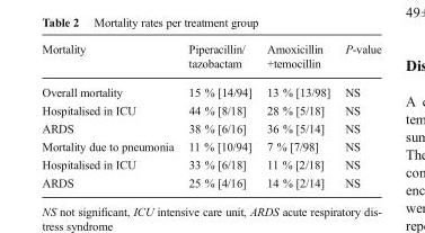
<table><thead><tr><td>Mortality</td><td>Piperacillin/ tazobactam</td><td>Amoxicillin +temocillin</td><td>P-value</td></tr></thead><tbody><tr><td>Overall mortality</td><td>15 % [14/94]</td><td>13 % [13/98]</td><td>NS</td></tr><tr><td>Hospitalised in ICU</td><td>44 % [8/18]</td><td>28 % [5/18]</td><td>NS</td></tr><tr><td>ARDS</td><td>38 % [6/16]</td><td>36 % [5/14]</td><td>NS</td></tr><tr><td>Mortality due to pneumonia</td><td>11 % [10/94]</td><td>7 % [7/98]</td><td>NS</td></tr><tr><td>Hospitalised in ICU</td><td>33 % [6/18]</td><td>11 % [2/18]</td><td>NS</td></tr><tr><td>ARDS</td><td>25 % [4/16]</td><td>14 % [2/14]</td><td>NS</td></tr></tbody></table>